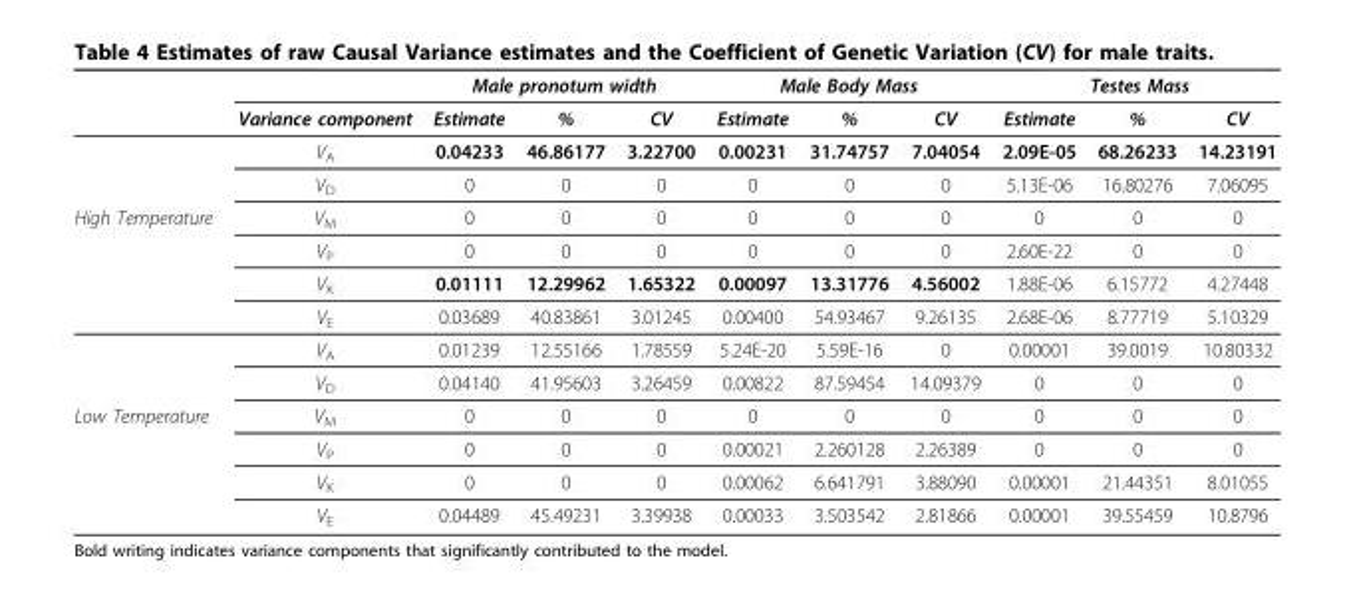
<table><thead><tr><td rowspan="2"></td><td rowspan="2">Variance component</td><td colspan="3">Male pronotum width</td><td colspan="3">Male Body Mass</td><td colspan="3">Testes Mass</td></tr><tr><td>Estimate</td><td>%</td><td>CV</td><td>Estimate</td><td>%</td><td>CV</td><td>Estimate</td><td>%</td><td>CV</td></tr></thead><tbody><tr><td></td><td>V<sub>A</sub></td><td>0.04233</td><td>46.86177</td><td>3.22700</td><td>0.00231</td><td>31.74757</td><td>7.04054</td><td>2.09E-05</td><td>68.26233</td><td>14.23191</td></tr><tr><td></td><td>V<sub>D</sub></td><td>0</td><td>0</td><td>0</td><td>0</td><td>0</td><td>0</td><td>5.13E-06</td><td>16.80276</td><td>7.06095</td></tr><tr><td rowspan="6">High Temperature</td><td>V<sub>M</sub></td><td>0</td><td>0</td><td>0</td><td>0</td><td>0</td><td>0</td><td>0</td><td>0</td><td>0</td></tr><tr><td>V<sub>P</sub></td><td>0</td><td>0</td><td>0</td><td>0</td><td>0</td><td>0</td><td>2.60E-22</td><td>0</td><td>0</td></tr><tr><td>V<sub>K</sub></td><td>0.01111</td><td>12.29962</td><td>1.65322</td><td>0.00097</td><td>13.31776</td><td>4.56002</td><td>1.88E-06</td><td>6.15772</td><td>4.27448</td></tr><tr><td>V<sub>E</sub></td><td>0.03689</td><td>40.83861</td><td>3.01245</td><td>0.00400</td><td>54.93467</td><td>9.26135</td><td>2.68E-06</td><td>8.77719</td><td>5.10329</td></tr><tr><td>V<sub>A</sub></td><td>0.01239</td><td>12.55166</td><td>1.78559</td><td>5.24E-20</td><td>5.59E-16</td><td>0</td><td>0.00001</td><td>39.0019</td><td>10.80332</td></tr><tr><td>V<sub>D</sub></td><td>0.04140</td><td>41.95603</td><td>3.26459</td><td>0.00822</td><td>87.59454</td><td>14.09379</td><td>0</td><td>0</td><td>0</td></tr><tr><td rowspan="4">Low Temperature</td><td>V<sub>M</sub></td><td>0</td><td>0</td><td>0</td><td>0</td><td>0</td><td>0</td><td>0</td><td>0</td><td>0</td></tr><tr><td>V<sub>P</sub></td><td>0</td><td>0</td><td>0</td><td>0.00021</td><td>2.260128</td><td>2.26389</td><td>0</td><td>0</td><td>0</td></tr><tr><td>V<sub>K</sub></td><td>0</td><td>0</td><td>0</td><td>0.00062</td><td>6.641791</td><td>3.88090</td><td>0.00001</td><td>21.44351</td><td>8.01055</td></tr><tr><td>V<sub>E</sub></td><td>0.04489</td><td>45.49231</td><td>3.39938</td><td>0.00033</td><td>3.503542</td><td>2.81866</td><td>0.00001</td><td>39.55459</td><td>10.8796</td></tr></tbody></table>